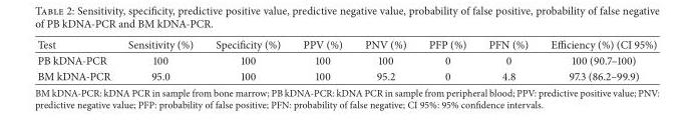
<table><thead><tr><td>Test</td><td>Sensitivity (%)</td><td>Specificity (%)</td><td>PPV (%)</td><td>PNV (%)</td><td>PFP (%)</td><td>PFN (%)</td><td>Efficiency (%) (CI 95%)</td></tr></thead><tbody><tr><td>PB kDNA-PCR</td><td>100</td><td>100</td><td>100</td><td>100</td><td>0</td><td>0</td><td>100 (90.7–100)</td></tr><tr><td>BM kDNA-PCR</td><td>95.0</td><td>100</td><td>100</td><td>95.2</td><td>0</td><td>4.8</td><td>97.3 (86.2–99.9)</td></tr></tbody></table>